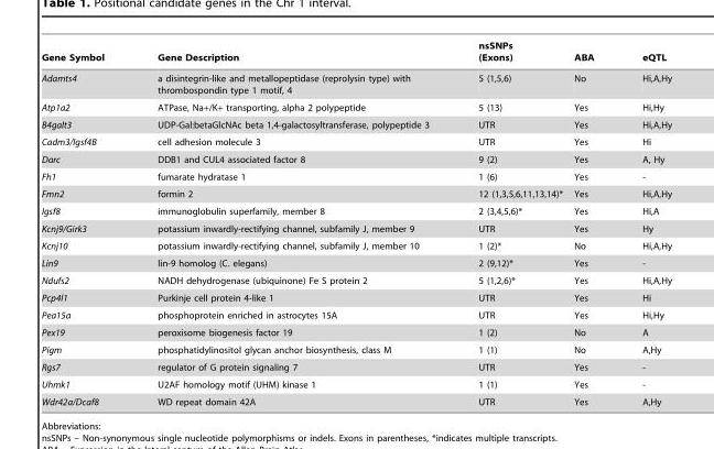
<table><thead><tr><td>Gene Symbol</td><td>Gene Description</td><td>nsSNPs (Exons)</td><td>ABA</td><td>eQTL</td></tr></thead><tbody><tr><td>Adamts4</td><td>a disintegrin-like and metallopeptidase (reprolysin type) with thrombospondin type 1 motif, 4</td><td>5 (1,5,6)</td><td>No</td><td>Hi,A,Hy</td></tr><tr><td>Atp1a2</td><td>ATPase, Na+/K+ transporting, alpha 2 polypeptide</td><td>5 (13)</td><td>Yes</td><td>Hi,Hy</td></tr><tr><td>B4galt3</td><td>UDP-Gal:betaGlcNAc beta 1,4-galactosyltransferase, polypeptide 3</td><td>UTR</td><td>Yes</td><td>Hi,A,Hy</td></tr><tr><td>Cadm3/Igsf4B</td><td>cell adhesion molecule 3</td><td>UTR</td><td>Yes</td><td>Hi</td></tr><tr><td>Darc</td><td>DDB1 and CUL4 associated factor 8</td><td>9 (2)</td><td>Yes</td><td>A, Hy</td></tr><tr><td>Fh1</td><td>fumarate hydratase 1</td><td>1 (6)</td><td>Yes</td><td>-</td></tr><tr><td>Fmn2</td><td>formin 2</td><td>12 (1,3,5,6,11,13,14)*</td><td>Yes</td><td>Hi,A,Hy</td></tr><tr><td>Igsf8</td><td>immunoglobulin superfamily, member 8</td><td>2 (3,4,5,6)*</td><td>Yes</td><td>Hi,A</td></tr><tr><td>Kcnj9/Girk3</td><td>potassium inwardly-rectifying channel, subfamily J, member 9</td><td>UTR</td><td>Yes</td><td>Hy</td></tr><tr><td>Kcnj10</td><td>potassium inwardly-rectifying channel, subfamily J, member 10</td><td>1 (2)*</td><td>No</td><td>Hi,A,Hy</td></tr><tr><td>Lin9</td><td>lin-9 homolog (C. elegans)</td><td>2 (9,12)*</td><td>Yes</td><td>-</td></tr><tr><td>Ndufs2</td><td>NADH dehydrogenase (ubiquinone) Fe S protein 2</td><td>5 (1,2,6)*</td><td>Yes</td><td>Hi,A,Hy</td></tr><tr><td>Pcp4l1</td><td>Purkinje cell protein 4-like 1</td><td>UTR</td><td>Yes</td><td>Hi</td></tr><tr><td>Pea15a</td><td>phosphoprotein enriched in astrocytes 15A</td><td>UTR</td><td>Yes</td><td>Hi,Hy</td></tr><tr><td>Pex19</td><td>peroxisome biogenesis factor 19</td><td>1 (2)</td><td>No</td><td>A</td></tr><tr><td>Pigm</td><td>phosphatidylinositol glycan anchor biosynthesis, class M</td><td>1 (1)</td><td>No</td><td>A,Hy</td></tr><tr><td>Rgs7</td><td>regulator of G protein signaling 7</td><td>UTR</td><td>Yes</td><td>-</td></tr><tr><td>Uhmk1</td><td>U2AF homology motif (UHM) kinase 1</td><td>1 (1)</td><td>Yes</td><td>-</td></tr><tr><td>Wdr42a/Dcaf8</td><td>WD repeat domain 42A</td><td>UTR</td><td>Yes</td><td>A,Hy</td></tr></tbody></table>